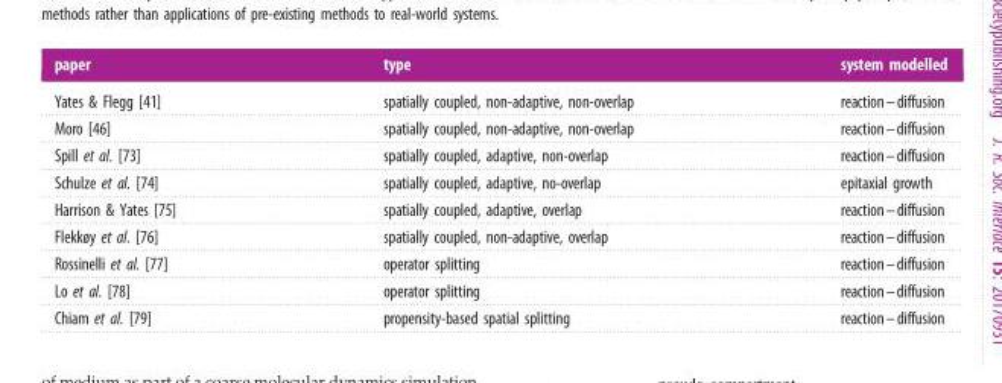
<table><thead><tr><td>paper</td><td>type</td><td>system modelled</td></tr></thead><tbody><tr><td>Yates &amp; Flegg [41]</td><td>spatially coupled, non-adaptive, non-overlap</td><td>reaction–diffusion</td></tr><tr><td>Moro [46]</td><td>spatially coupled, non-adaptive, non-overlap</td><td>reaction–diffusion</td></tr><tr><td>Spill et al. [73]</td><td>spatially coupled, adaptive, non-overlap</td><td>reaction–diffusion</td></tr><tr><td>Schulze et al. [74]</td><td>spatially coupled, adaptive, no-overlap</td><td>epitaxial growth</td></tr><tr><td>Harrison &amp; Yates [75]</td><td>spatially coupled, adaptive, overlap</td><td>reaction–diffusion</td></tr><tr><td>Flekkøy et al. [76]</td><td>spatially coupled, non-adaptive, overlap</td><td>reaction–diffusion</td></tr><tr><td>Rossinelli et al. [77]</td><td>operator splitting</td><td>reaction–diffusion</td></tr><tr><td>Lo et al. [78]</td><td>operator splitting</td><td>reaction–diffusion</td></tr><tr><td>Chiam et al. [79]</td><td>propensity-based spatial splitting</td><td>reaction–diffusion</td></tr></tbody></table>